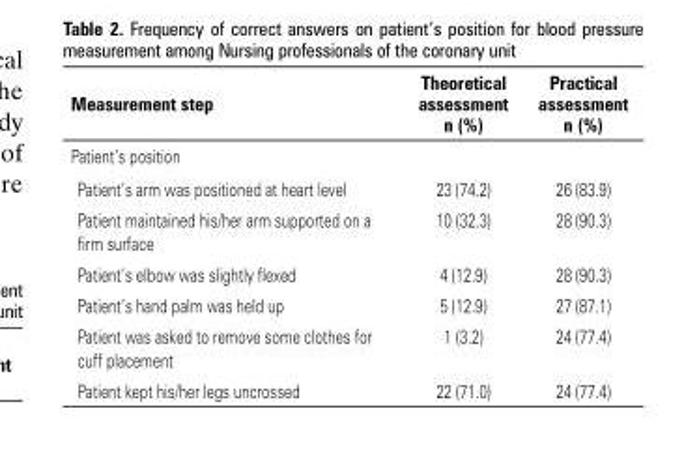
<table><thead><tr><td>Measurement step</td><td>Theoretical assessment n (%)</td><td>Practical assessment n (%)</td></tr></thead><tbody><tr><td colspan="3">Patient’s position</td></tr><tr><td>Patient’s arm was positioned at heart level</td><td>23 (74.2)</td><td>26 (83.9)</td></tr><tr><td>Patient maintained his/her arm supported on a firm surface</td><td>10 (32.3)</td><td>28 (90.3)</td></tr><tr><td>Patient’s elbow was slightly flexed</td><td>4 (12.9)</td><td>28 (90.3)</td></tr><tr><td>Patient’s hand palm was held up</td><td>5 (12.9)</td><td>27 (87.1)</td></tr><tr><td>Patient was asked to remove some clothes for cuff placement</td><td>1 (3.2)</td><td>24 (77.4)</td></tr><tr><td>Patient kept his/her legs uncrossed</td><td>22 (71.0)</td><td>24 (77.4)</td></tr></tbody></table>